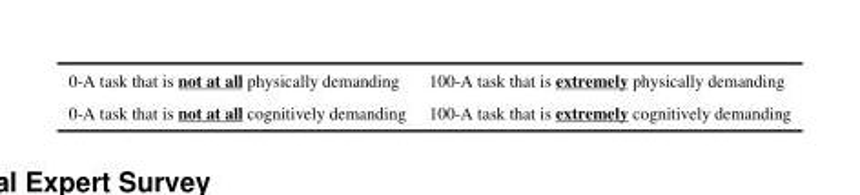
<table><tbody><tr><td>0-A task that is not at all physically demanding</td><td>100-A task that is extremely physically demanding</td></tr><tr><td>0-A task that is not at all cognitively demanding</td><td>100-A task that is extremely cognitively demanding</td></tr></tbody></table>